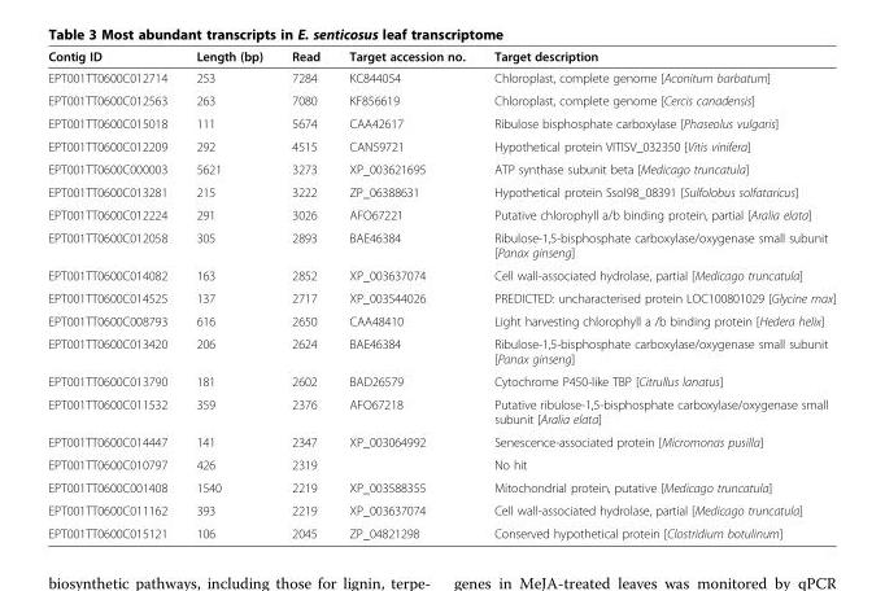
<table><thead><tr><td>Contig ID</td><td>Length (bp)</td><td>Read</td><td>Target accession no.</td><td>Target description</td></tr></thead><tbody><tr><td>EPT001TT0600C012714</td><td>253</td><td>7284</td><td>KC844054</td><td>Chloroplast, complete genome [Aconitum barbatum]</td></tr><tr><td>EPT001TT0600C012563</td><td>263</td><td>7080</td><td>KF856619</td><td>Chloroplast, complete genome [Cercis canadensis]</td></tr><tr><td>EPT001TT0600C015018</td><td>111</td><td>5674</td><td>CAA42617</td><td>Ribulose bisphosphate carboxylase [Phaseolus vulgaris]</td></tr><tr><td>EPT001TT0600C012209</td><td>292</td><td>4515</td><td>CAN59721</td><td>Hypothetical protein VITISV_032350 [Vitis vinifera]</td></tr><tr><td>EPT001TT0600C000003</td><td>5621</td><td>3273</td><td>XP_003621695</td><td>ATP synthase subunit beta [Medicago truncatula]</td></tr><tr><td>EPT001TT0600C013281</td><td>215</td><td>3222</td><td>ZP_06388631</td><td>Hypothetical protein Ssol98_08391 [Sulfolobus solfataricus]</td></tr><tr><td>EPT001TT0600C012224</td><td>291</td><td>3026</td><td>AFO67221</td><td>Putative chlorophyll a/b binding protein, partial [Aralia elata]</td></tr><tr><td>EPT001TT0600C012058</td><td>305</td><td>2893</td><td>BAE46384</td><td>Ribulose-1,5-bisphosphate carboxylase/oxygenase small subunit [Panax ginseng]</td></tr><tr><td>EPT001TT0600C014082</td><td>163</td><td>2852</td><td>XP_003637074</td><td>Cell wall-associated hydrolase, partial [Medicago truncatula]</td></tr><tr><td>EPT001TT0600C014525</td><td>137</td><td>2717</td><td>XP_003544026</td><td>PREDICTED: uncharacterised protein LOC100801029 [Glycine max]</td></tr><tr><td>EPT001TT0600C008793</td><td>616</td><td>2650</td><td>CAA48410</td><td>Light harvesting chlorophyll a /b binding protein [Hedera helix]</td></tr><tr><td>EPT001TT0600C013420</td><td>206</td><td>2624</td><td>BAE46384</td><td>Ribulose-1,5-bisphosphate carboxylase/oxygenase small subunit [Panax ginseng]</td></tr><tr><td>EPT001TT0600C013790</td><td>181</td><td>2602</td><td>BAD26579</td><td>Cytochrome P450-like TBP [Citrullus lanatus]</td></tr><tr><td>EPT001TT0600C011532</td><td>359</td><td>2376</td><td>AFO67218</td><td>Putative ribulose-1,5-bisphosphate carboxylase/oxygenase small subunit [Aralia elata]</td></tr><tr><td>EPT001TT0600C014447</td><td>141</td><td>2347</td><td>XP_003064992</td><td>Senescence-associated protein [Micromonas pusilla]</td></tr><tr><td>EPT001TT0600C010797</td><td>426</td><td>2319</td><td></td><td>No hit</td></tr><tr><td>EPT001TT0600C001408</td><td>1540</td><td>2219</td><td>XP_003588355</td><td>Mitochondrial protein, putative [Medicago truncatula]</td></tr><tr><td>EPT001TT0600C011162</td><td>393</td><td>2219</td><td>XP_003637074</td><td>Cell wall-associated hydrolase, partial [Medicago truncatula]</td></tr><tr><td>EPT001TT0600C015121</td><td>106</td><td>2045</td><td>ZP_04821298</td><td>Conserved hypothetical protein [Clostridium botulinum]</td></tr></tbody></table>